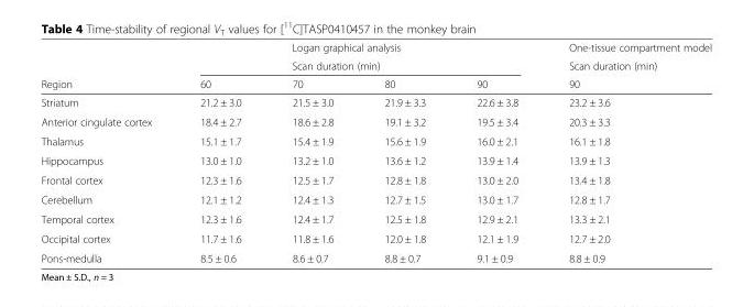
<table><thead><tr><td rowspan="3">Region</td><td rowspan="2" colspan="4">Logan graphical analysis Scan duration (min)</td><td rowspan="3">One-tissue compartment model Scan duration (min) 90</td></tr><tr></tr><tr><td>60</td><td>70</td><td>80</td><td>90</td></tr></thead><tbody><tr><td>Striatum</td><td>21.2 ± 3.0</td><td>21.5 ± 3.0</td><td>21.9 ± 3.3</td><td>22.6 ± 3.8</td><td>23.2 ± 3.6</td></tr><tr><td>Anterior cingulate cortex</td><td>18.4 ± 2.7</td><td>18.6 ± 2.8</td><td>19.1 ± 3.2</td><td>19.5 ± 3.4</td><td>20.3 ± 3.3</td></tr><tr><td>Thalamus</td><td>15.1 ± 1.7</td><td>15.4 ± 1.9</td><td>15.6 ± 1.9</td><td>16.0 ± 2.1</td><td>16.1 ± 1.8</td></tr><tr><td>Hippocampus</td><td>13.0 ± 1.0</td><td>13.2 ± 1.0</td><td>13.6 ± 1.2</td><td>13.9 ± 1.4</td><td>13.9 ± 1.3</td></tr><tr><td>Frontal cortex</td><td>12.3 ± 1.6</td><td>12.5 ± 1.7</td><td>12.8 ± 1.8</td><td>13.0 ± 2.0</td><td>13.4 ± 1.8</td></tr><tr><td>Cerebellum</td><td>12.1 ± 1.2</td><td>12.4 ± 1.3</td><td>12.7 ± 1.5</td><td>13.0 ± 1.7</td><td>12.8 ± 1.7</td></tr><tr><td>Temporal cortex</td><td>12.3 ± 1.6</td><td>12.4 ± 1.7</td><td>12.5 ± 1.8</td><td>12.9 ± 2.1</td><td>13.3 ± 2.1</td></tr><tr><td>Occipital cortex</td><td>11.7 ± 1.6</td><td>11.8 ± 1.6</td><td>12.0 ± 1.8</td><td>12.1 ± 1.9</td><td>12.7 ± 2.0</td></tr><tr><td>Pons-medulla</td><td>8.5 ± 0.6</td><td>8.6 ± 0.7</td><td>8.8 ± 0.7</td><td>9.1 ± 0.9</td><td>8.8 ± 0.9</td></tr></tbody></table>